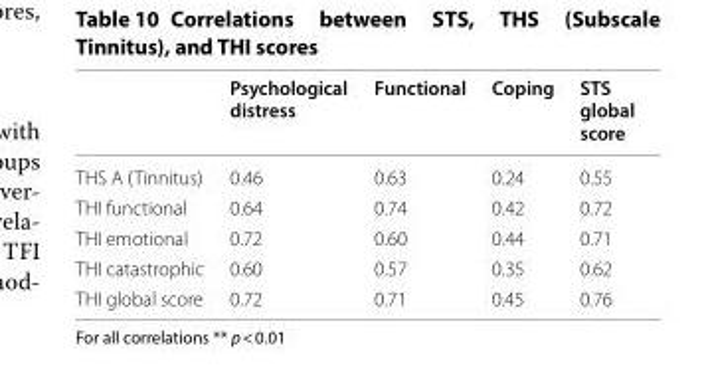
<table><thead><tr><td></td><td>Psychological distress</td><td>Functional</td><td>Coping</td><td>STS global score</td></tr></thead><tbody><tr><td>THS A (Tinnitus)</td><td>0.46</td><td>0.63</td><td>0.24</td><td>0.55</td></tr><tr><td>THI functional</td><td>0.64</td><td>0.74</td><td>0.42</td><td>0.72</td></tr><tr><td>THI emotional</td><td>0.72</td><td>0.60</td><td>0.44</td><td>0.71</td></tr><tr><td>THI catastrophic</td><td>0.60</td><td>0.57</td><td>0.35</td><td>0.62</td></tr><tr><td>THI global score</td><td>0.72</td><td>0.71</td><td>0.45</td><td>0.76</td></tr></tbody></table>